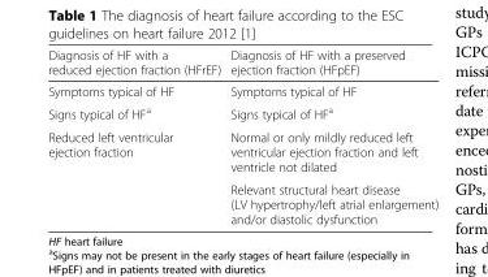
<table><thead><tr><td>Diagnosis of HF with a reduced ejection fraction (HFrEF)</td><td>Diagnosis of HF with a preserved ejection fraction (HFpEF)</td></tr></thead><tbody><tr><td>Symptoms typical of HF</td><td>Symptoms typical of HF</td></tr><tr><td>Signs typical of HF<sup>a</sup></td><td>Signs typical of HF<sup>a</sup></td></tr><tr><td rowspan="2">Reduced left ventricular ejection fraction</td><td>Normal or only mildly reduced left ventricular ejection fraction and left ventricle not dilated</td></tr><tr><td>Relevant structural heart disease (LV hypertrophy/left atrial enlargement) and/or diastolic dysfunction</td></tr></tbody></table>